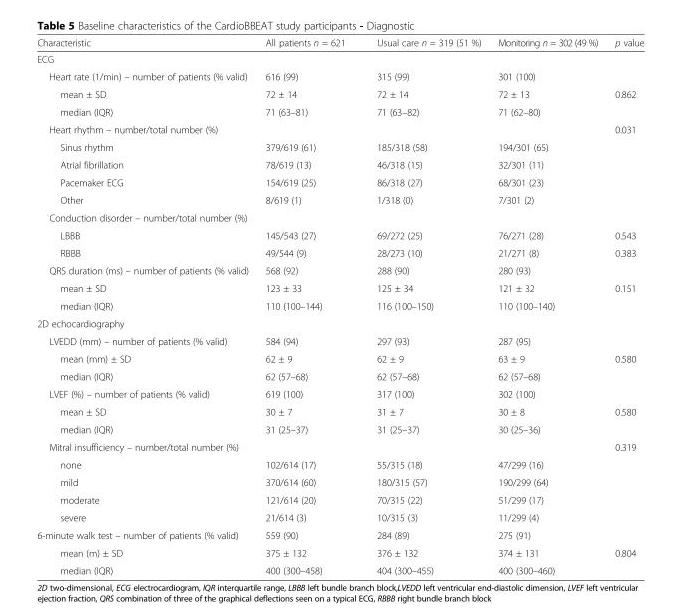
<table><thead><tr><td>Characteristic</td><td>All patients n = 621</td><td>Usual care n = 319 (51 %)</td><td>Monitoring n = 302 (49 %)</td><td>p value</td></tr></thead><tbody><tr><td colspan="5">ECG</td></tr><tr><td>Heart rate (1/min) – number of patients (% valid)</td><td>616 (99)</td><td>315 (99)</td><td>301 (100)</td><td></td></tr><tr><td>mean ± SD</td><td>72 ± 14</td><td>72 ± 14</td><td>72 ± 13</td><td>0.862</td></tr><tr><td>median (IQR)</td><td>71 (63–81)</td><td>71 (63–82)</td><td>71 (62–80)</td><td></td></tr><tr><td>Heart rhythm – number/total number (%)</td><td></td><td></td><td></td><td>0.031</td></tr><tr><td>Sinus rhythm</td><td>379/619 (61)</td><td>185/318 (58)</td><td>194/301 (65)</td><td></td></tr><tr><td>Atrial fibrillation</td><td>78/619 (13)</td><td>46/318 (15)</td><td>32/301 (11)</td><td></td></tr><tr><td>Pacemaker ECG</td><td>154/619 (25)</td><td>86/318 (27)</td><td>68/301 (23)</td><td></td></tr><tr><td>Other</td><td>8/619 (1)</td><td>1/318 (0)</td><td>7/301 (2)</td><td></td></tr><tr><td colspan="5">Conduction disorder – number/total number (%)</td></tr><tr><td>LBBB</td><td>145/543 (27)</td><td>69/272 (25)</td><td>76/271 (28)</td><td>0.543</td></tr><tr><td>RBBB</td><td>49/544 (9)</td><td>28/273 (10)</td><td>21/271 (8)</td><td>0.383</td></tr><tr><td>QRS duration (ms) – number of patients (% valid)</td><td>568 (92)</td><td>288 (90)</td><td>280 (93)</td><td></td></tr><tr><td>mean ± SD</td><td>123 ± 33</td><td>125 ± 34</td><td>121 ± 32</td><td>0.151</td></tr><tr><td>median (IQR)</td><td>110 (100–144)</td><td>116 (100–150)</td><td>110 (100–140)</td><td></td></tr><tr><td colspan="5">2D echocardiography</td></tr><tr><td>LVEDD (mm) – number of patients (% valid)</td><td>584 (94)</td><td>297 (93)</td><td>287 (95)</td><td></td></tr><tr><td>mean (mm) ± SD</td><td>62 ± 9</td><td>62 ± 9</td><td>63 ± 9</td><td>0.580</td></tr><tr><td>median (IQR)</td><td>62 (57–68)</td><td>62 (57–68)</td><td>62 (57–68)</td><td></td></tr><tr><td>LVEF (%) – number of patients (% valid)</td><td>619 (100)</td><td>317 (100)</td><td>302 (100)</td><td></td></tr><tr><td>mean ± SD</td><td>30 ± 7</td><td>31 ± 7</td><td>30 ± 8</td><td>0.580</td></tr><tr><td>median (IQR)</td><td>31 (25–37)</td><td>31 (25–37)</td><td>30 (25–36)</td><td></td></tr><tr><td>Mitral insufficiency – number/total number (%)</td><td></td><td></td><td></td><td>0.319</td></tr><tr><td>none</td><td>102/614 (17)</td><td>55/315 (18)</td><td>47/299 (16)</td><td></td></tr><tr><td>mild</td><td>370/614 (60)</td><td>180/315 (57)</td><td>190/299 (64)</td><td></td></tr><tr><td>moderate</td><td>121/614 (20)</td><td>70/315 (22)</td><td>51/299 (17)</td><td></td></tr><tr><td>severe</td><td>21/614 (3)</td><td>10/315 (3)</td><td>11/299 (4)</td><td></td></tr><tr><td>6-minute walk test – number of patients (% valid)</td><td>559 (90)</td><td>284 (89)</td><td>275 (91)</td><td></td></tr><tr><td>mean (m) ± SD</td><td>375 ± 132</td><td>376 ± 132</td><td>374 ± 131</td><td>0.804</td></tr><tr><td>median (IQR)</td><td>400 (300–458)</td><td>404 (300–455)</td><td>400 (300–460)</td><td></td></tr></tbody></table>